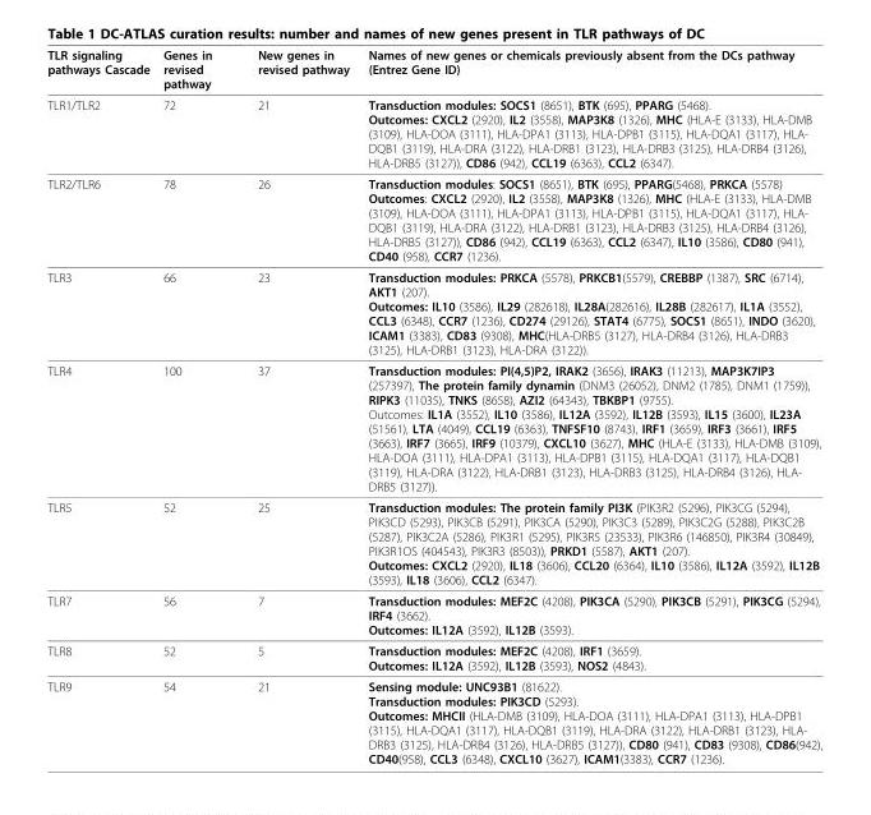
<table><thead><tr><td>TLR signaling pathways Cascade</td><td>Genes in revised pathway</td><td>New genes in revised pathway</td><td>Names of new genes or chemicals previously absent from the DCs pathway (Entrez Gene ID)</td></tr></thead><tbody><tr><td>TLR1/TLR2</td><td>72</td><td>21</td><td>Transduction modules: SOCS1 (8651), BTK (695), PPARG (5468). Outcomes: CXCL2 (2920), IL2 (3558), MAP3K8 (1326), MHC (HLA-E (3133), HLA-DMB (3109), HLA-DOA (3111), HLA-DPA1 (3113), HLA-DPB1 (3115), HLA-DQA1 (3117), HLA- DQB1 (3119), HLA-DRA (3122), HLA-DRB1 (3123), HLA-DRB3 (3125), HLA-DRB4 (3126), HLA-DRB5 (3127)), CD86 (942), CCL19 (6363), CCL2 (6347).</td></tr><tr><td>TLR2/TLR6</td><td>78</td><td>26</td><td>Transduction modules: SOCS1 (8651), BTK (695), PPARG(5468), PRKCA (5578) Outcomes: CXCL2 (2920), IL2 (3558), MAP3K8 (1326), MHC (HLA-E (3133), HLA-DMB (3109), HLA-DOA (3111), HLA-DPA1 (3113), HLA-DPB1 (3115), HLA-DQA1 (3117), HLA- DQB1 (3119), HLA-DRA (3122), HLA-DRB1 (3123), HLA-DRB3 (3125), HLA-DRB4 (3126), HLA-DRB5 (3127)), CD86 (942), CCL19 (6363), CCL2 (6347), IL10 (3586), CD80 (941), CD40 (958), CCR7 (1236).</td></tr><tr><td>TLR3</td><td>66</td><td>23</td><td>Transduction modules: PRKCA (5578), PRKCB1(5579), CREBBP (1387), SRC (6714), AKT1 (207). Outcomes: IL10 (3586), IL29 (282618), IL28A(282616), IL28B (282617), IL1A (3552), CCL3 (6348), CCR7 (1236), CD274 (29126), STAT4 (6775), SOCS1 (8651), INDO (3620), ICAM1 (3383), CD83 (9308), MHC(HLA-DRB5 (3127), HLA-DRB4 (3126), HLA-DRB3 (3125), HLA-DRB1 (3123), HLA-DRA (3122)).</td></tr><tr><td>TLR4</td><td>100</td><td>37</td><td>Transduction modules: PI(4,5)P2, IRAK2 (3656), IRAK3 (11213), MAP3K7IP3 (257397), The protein family dynamin (DNM3 (26052), DNM2 (1785), DNM1 (1759)), RIPK3 (11035), TNKS (8658), AZI2 (64343), TBKBP1 (9755). Outcomes: IL1A (3552), IL10 (3586), IL12A (3592), IL12B (3593), IL15 (3600), IL23A (51561), LTA (4049), CCL19 (6363), TNFSF10 (8743), IRF1 (3659), IRF3 (3661), IRF5 (3663), IRF7 (3665), IRF9 (10379), CXCL10 (3627), MHC (HLA-E (3133), HLA-DMB (3109), HLA-DOA (3111), HLA-DPA1 (3113), HLA-DPB1 (3115), HLA-DQA1 (3117), HLA-DQB1 (3119), HLA-DRA (3122), HLA-DRB1 (3123), HLA-DRB3 (3125), HLA-DRB4 (3126), HLA- DRB5 (3127)).</td></tr><tr><td>TLR5</td><td>52</td><td>25</td><td>Transduction modules: The protein family PI3K (PIK3R2 (5296), PIK3CG (5294), PIK3CD (5293), PIK3CB (5291), PIK3CA (5290), PIK3C3 (5289), PIK3C2G (5288), PIK3C2B (5287), PIK3C2A (5286), PIK3R1 (5295), PIK3R5 (23533), PIK3R6 (146850), PIK3R4 (30849), PIK3R1OS (404543), PIK3R3 (8503)), PRKD1 (5587), AKT1 (207). Outcomes: CXCL2 (2920), IL18 (3606), CCL20 (6364), IL10 (3586), IL12A (3592), IL12B (3593), IL18 (3606), CCL2 (6347).</td></tr><tr><td>TLR7</td><td>56</td><td>7</td><td>Transduction modules: MEF2C (4208), PIK3CA (5290), PIK3CB (5291), PIK3CG (5294), IRF4 (3662). Outcomes: IL12A (3592), IL12B (3593).</td></tr><tr><td>TLR8</td><td>52</td><td>5</td><td>Transduction modules: MEF2C (4208), IRF1 (3659). Outcomes: IL12A (3592), IL12B (3593), NOS2 (4843).</td></tr><tr><td>TLR9</td><td>54</td><td>21</td><td>Sensing module: UNC93B1 (81622). Transduction modules: PIK3CD (5293). Outcomes: MHCII (HLA-DMB (3109), HLA-DOA (3111), HLA-DPA1 (3113), HLA-DPB1 (3115), HLA-DQA1 (3117), HLA-DQB1 (3119), HLA-DRA (3122), HLA-DRB1 (3123), HLA- DRB3 (3125), HLA-DRB4 (3126), HLA-DRB5 (3127)), CD80 (941), CD83 (9308), CD86(942), CD40(958), CCL3 (6348), CXCL10 (3627), ICAM1(3383), CCR7 (1236).</td></tr></tbody></table>